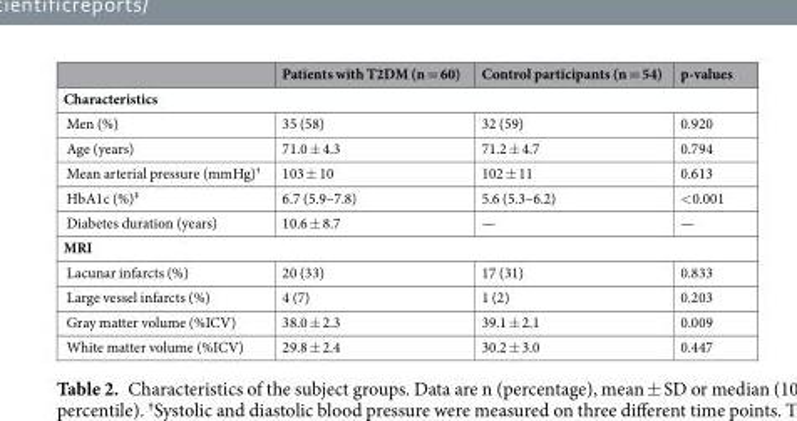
<table><thead><tr><td></td><td>Patients with T2DM (n = 60)</td><td>Control participants (n = 54)</td><td>p-values</td></tr></thead><tbody><tr><td colspan="4">Characteristics</td></tr><tr><td>Men (%)</td><td>35 (58)</td><td>32 (59)</td><td>0.920</td></tr><tr><td>Age (years)</td><td>71.0 ± 4.3</td><td>71.2 ± 4.7</td><td>0.794</td></tr><tr><td>Mean arterial pressure (mmHg)<sup>†</sup></td><td>103 ± 10</td><td>102 ± 11</td><td>0.613</td></tr><tr><td>HbA1c (%)<sup>‡</sup></td><td>6.7 (5.9–7.8)</td><td>5.6 (5.3–6.2)</td><td>&lt;0.001</td></tr><tr><td>Diabetes duration (years)</td><td>10.6 ± 8.7</td><td>—</td><td>—</td></tr><tr><td colspan="4">MRI</td></tr><tr><td>Lacunar infarcts (%)</td><td>20 (33)</td><td>17 (31)</td><td>0.833</td></tr><tr><td>Large vessel infarcts (%)</td><td>4 (7)</td><td>1 (2)</td><td>0.203</td></tr><tr><td>Gray matter volume (%ICV)</td><td>38.0 ± 2.3</td><td>39.1 ± 2.1</td><td>0.009</td></tr><tr><td>White matter volume (%ICV)</td><td>29.8 ± 2.4</td><td>30.2 ± 3.0</td><td>0.447</td></tr></tbody></table>